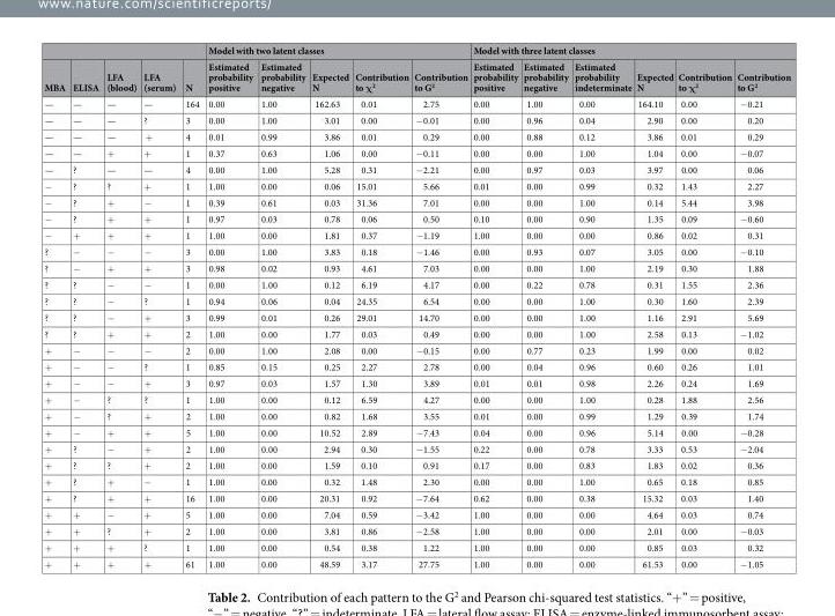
<table><thead><tr><td rowspan="2">MBA</td><td rowspan="2">ELISA</td><td rowspan="2">LFA (blood)</td><td rowspan="2">LFA (serum)</td><td rowspan="2">N</td><td colspan="5">Model with two latent classes</td><td colspan="6">Model with three latent classes</td></tr><tr><td>Estimated probability positive</td><td>Estimated probability negative</td><td>Expected N</td><td>Contribution to χ<sup>2</sup></td><td>Contribution to G<sup>2</sup></td><td>Estimated probability positive</td><td>Estimated probability negative</td><td>Estimated probability indeterminate</td><td>Expected N</td><td>Contribution to χ<sup>2</sup></td><td>Contribution to G<sup>2</sup></td></tr></thead><tbody><tr><td>—</td><td>—</td><td>—</td><td>—</td><td>164</td><td>0.00</td><td>1.00</td><td>162.63</td><td>0.01</td><td>2.75</td><td>0.00</td><td>1.00</td><td>0.00</td><td>164.10</td><td>0.00</td><td>−0.21</td></tr><tr><td>—</td><td>—</td><td>—</td><td>?</td><td>3</td><td>0.00</td><td>1.00</td><td>3.01</td><td>0.00</td><td>−0.01</td><td>0.00</td><td>0.96</td><td>0.04</td><td>2.90</td><td>0.00</td><td>0.20</td></tr><tr><td>—</td><td>—</td><td>—</td><td>+</td><td>4</td><td>0.01</td><td>0.99</td><td>3.86</td><td>0.01</td><td>0.29</td><td>0.00</td><td>0.88</td><td>0.12</td><td>3.86</td><td>0.01</td><td>0.29</td></tr><tr><td>—</td><td>—</td><td>+</td><td>+</td><td>1</td><td>0.37</td><td>0.63</td><td>1.06</td><td>0.00</td><td>−0.11</td><td>0.00</td><td>0.00</td><td>1.00</td><td>1.04</td><td>0.00</td><td>−0.07</td></tr><tr><td>—</td><td>?</td><td>—</td><td>—</td><td>4</td><td>0.00</td><td>1.00</td><td>5.28</td><td>0.31</td><td>−2.21</td><td>0.00</td><td>0.97</td><td>0.03</td><td>3.97</td><td>0.00</td><td>0.06</td></tr><tr><td>−</td><td>?</td><td>?</td><td>+</td><td>1</td><td>1.00</td><td>0.00</td><td>0.06</td><td>15.01</td><td>5.66</td><td>0.01</td><td>0.00</td><td>0.99</td><td>0.32</td><td>1.43</td><td>2.27</td></tr><tr><td>−</td><td>?</td><td>+</td><td>−</td><td>1</td><td>0.39</td><td>0.61</td><td>0.03</td><td>31.36</td><td>7.01</td><td>0.00</td><td>0.00</td><td>1.00</td><td>0.14</td><td>5.44</td><td>3.98</td></tr><tr><td>−</td><td>?</td><td>+</td><td>+</td><td>1</td><td>0.97</td><td>0.03</td><td>0.78</td><td>0.06</td><td>0.50</td><td>0.10</td><td>0.00</td><td>0.90</td><td>1.35</td><td>0.09</td><td>−0.60</td></tr><tr><td>−</td><td>+</td><td>+</td><td>+</td><td>1</td><td>1.00</td><td>0.00</td><td>1.81</td><td>0.37</td><td>−1.19</td><td>1.00</td><td>0.00</td><td>0.00</td><td>0.86</td><td>0.02</td><td>0.31</td></tr><tr><td>?</td><td>−</td><td>−</td><td>−</td><td>3</td><td>0.00</td><td>1.00</td><td>3.83</td><td>0.18</td><td>−1.46</td><td>0.00</td><td>0.93</td><td>0.07</td><td>3.05</td><td>0.00</td><td>−0.10</td></tr><tr><td>?</td><td>−</td><td>+</td><td>+</td><td>3</td><td>0.98</td><td>0.02</td><td>0.93</td><td>4.61</td><td>7.03</td><td>0.00</td><td>0.00</td><td>1.00</td><td>2.19</td><td>0.30</td><td>1.88</td></tr><tr><td>?</td><td>?</td><td>−</td><td>−</td><td>1</td><td>0.00</td><td>1.00</td><td>0.12</td><td>6.19</td><td>4.17</td><td>0.00</td><td>0.22</td><td>0.78</td><td>0.31</td><td>1.55</td><td>2.36</td></tr><tr><td>?</td><td>?</td><td>−</td><td>?</td><td>1</td><td>0.94</td><td>0.06</td><td>0.04</td><td>24.35</td><td>6.54</td><td>0.00</td><td>0.00</td><td>1.00</td><td>0.30</td><td>1.60</td><td>2.39</td></tr><tr><td>?</td><td>?</td><td>−</td><td>+</td><td>3</td><td>0.99</td><td>0.01</td><td>0.26</td><td>29.01</td><td>14.70</td><td>0.00</td><td>0.00</td><td>1.00</td><td>1.16</td><td>2.91</td><td>5.69</td></tr><tr><td>?</td><td>?</td><td>+</td><td>+</td><td>2</td><td>1.00</td><td>0.00</td><td>1.77</td><td>0.03</td><td>0.49</td><td>0.00</td><td>0.00</td><td>1.00</td><td>2.58</td><td>0.13</td><td>−1.02</td></tr><tr><td>+</td><td>−</td><td>−</td><td>−</td><td>2</td><td>0.00</td><td>1.00</td><td>2.08</td><td>0.00</td><td>−0.15</td><td>0.00</td><td>0.77</td><td>0.23</td><td>1.99</td><td>0.00</td><td>0.02</td></tr><tr><td>+</td><td>−</td><td>−</td><td>?</td><td>1</td><td>0.85</td><td>0.15</td><td>0.25</td><td>2.27</td><td>2.78</td><td>0.00</td><td>0.04</td><td>0.96</td><td>0.60</td><td>0.26</td><td>1.01</td></tr><tr><td>+</td><td>−</td><td>−</td><td>+</td><td>3</td><td>0.97</td><td>0.03</td><td>1.57</td><td>1.30</td><td>3.89</td><td>0.01</td><td>0.01</td><td>0.98</td><td>2.26</td><td>0.24</td><td>1.69</td></tr><tr><td>+</td><td>−</td><td>?</td><td>?</td><td>1</td><td>1.00</td><td>0.00</td><td>0.12</td><td>6.59</td><td>4.27</td><td>0.00</td><td>0.00</td><td>1.00</td><td>0.28</td><td>1.88</td><td>2.56</td></tr><tr><td>+</td><td>−</td><td>?</td><td>+</td><td>2</td><td>1.00</td><td>0.00</td><td>0.82</td><td>1.68</td><td>3.55</td><td>0.01</td><td>0.00</td><td>0.99</td><td>1.29</td><td>0.39</td><td>1.74</td></tr><tr><td>+</td><td>−</td><td>+</td><td>+</td><td>5</td><td>1.00</td><td>0.00</td><td>10.52</td><td>2.89</td><td>−7.43</td><td>0.04</td><td>0.00</td><td>0.96</td><td>5.14</td><td>0.00</td><td>−0.28</td></tr><tr><td>+</td><td>?</td><td>−</td><td>+</td><td>2</td><td>1.00</td><td>0.00</td><td>2.94</td><td>0.30</td><td>−1.55</td><td>0.22</td><td>0.00</td><td>0.78</td><td>3.33</td><td>0.53</td><td>−2.04</td></tr><tr><td>+</td><td>?</td><td>?</td><td>+</td><td>2</td><td>1.00</td><td>0.00</td><td>1.59</td><td>0.10</td><td>0.91</td><td>0.17</td><td>0.00</td><td>0.83</td><td>1.83</td><td>0.02</td><td>0.36</td></tr><tr><td>+</td><td>?</td><td>+</td><td>−</td><td>1</td><td>1.00</td><td>0.00</td><td>0.32</td><td>1.48</td><td>2.30</td><td>0.00</td><td>0.00</td><td>1.00</td><td>0.65</td><td>0.18</td><td>0.85</td></tr><tr><td>+</td><td>?</td><td>+</td><td>+</td><td>16</td><td>1.00</td><td>0.00</td><td>20.31</td><td>0.92</td><td>−7.64</td><td>0.62</td><td>0.00</td><td>0.38</td><td>15.32</td><td>0.03</td><td>1.40</td></tr><tr><td>+</td><td>+</td><td>−</td><td>+</td><td>5</td><td>1.00</td><td>0.00</td><td>7.04</td><td>0.59</td><td>−3.42</td><td>1.00</td><td>0.00</td><td>0.00</td><td>4.64</td><td>0.03</td><td>0.74</td></tr><tr><td>+</td><td>+</td><td>?</td><td>+</td><td>2</td><td>1.00</td><td>0.00</td><td>3.81</td><td>0.86</td><td>−2.58</td><td>1.00</td><td>0.00</td><td>0.00</td><td>2.01</td><td>0.00</td><td>−0.03</td></tr><tr><td>+</td><td>+</td><td>+</td><td>?</td><td>1</td><td>1.00</td><td>0.00</td><td>0.54</td><td>0.38</td><td>1.22</td><td>1.00</td><td>0.00</td><td>0.00</td><td>0.85</td><td>0.03</td><td>0.32</td></tr><tr><td>+</td><td>+</td><td>+</td><td>+</td><td>61</td><td>1.00</td><td>0.00</td><td>48.59</td><td>3.17</td><td>27.75</td><td>1.00</td><td>0.00</td><td>0.00</td><td>61.53</td><td>0.00</td><td>−1.05</td></tr></tbody></table>